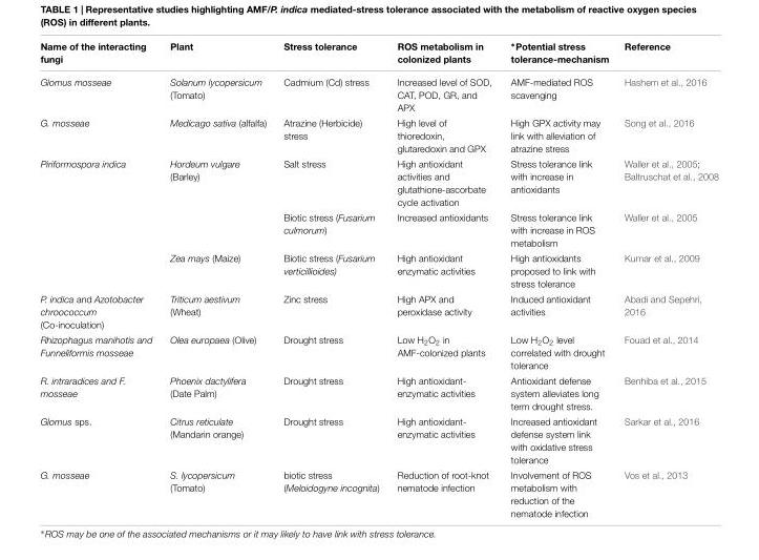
<table><thead><tr><td>Name of the interacting fungi</td><td>Plant</td><td>Stress tolerance</td><td>ROS metabolism in colonized plants</td><td>∗Potential stress tolerance-mechanism</td><td>Reference</td></tr></thead><tbody><tr><td>Glomus mosseae</td><td>Solanum lycopersicum (Tomato)</td><td>Cadmium (Cd) stress</td><td>Increased level of SOD, CAT, POD, GR, and APX</td><td>AMF-mediated ROS scavenging</td><td>Hashem et al., 2016</td></tr><tr><td>G. mosseae</td><td>Medicago sativa (alfalfa)</td><td>Atrazine (Herbicide) stress</td><td>High level of thioredoxin, glutaredoxin and GPX</td><td>High GPX activity may link with alleviation of atrazine stress</td><td>Song et al., 2016</td></tr><tr><td rowspan="3">Piriformospora indica</td><td>Hordeum vulgare (Barley)</td><td>Salt stress</td><td>High antioxidant activities and glutathione-ascorbate cycle activation</td><td>Stress tolerance link with increase in antioxidants</td><td>Waller et al., 2005; Baltruschat et al., 2008</td></tr><tr><td></td><td>Biotic stress (Fusarium culmorum)</td><td>Increased antioxidants</td><td>Stress tolerance link with increase in ROS metabolism</td><td>Waller et al., 2005</td></tr><tr><td>Zea mays (Maize)</td><td>Biotic stress (Fusarium verticillioides)</td><td>High antioxidant enzymatic activities</td><td>High antioxidants proposed to link with stress tolerance</td><td>Kumar et al., 2009</td></tr><tr><td>P. indica and Azotobacter chroococcum (Co-inoculation)</td><td>Triticum aestivum (Wheat)</td><td>Zinc stress</td><td>High APX and peroxidase activity</td><td>Induced antioxidant activities</td><td>Abadi and Sepehri, 2016</td></tr><tr><td>Rhizophagus manihotis and Funneliformis mosseae</td><td>Olea europaea (Olive)</td><td>Drought stress</td><td>Low H<sub>2</sub>O<sub>2</sub> in AMF-colonized plants</td><td>Low H<sub>2</sub>O<sub>2</sub> level correlated with drought tolerance</td><td>Fouad et al., 2014</td></tr><tr><td>R. intraradices and F. mosseae</td><td>Phoenix dactylifera (Date Palm)</td><td>Drought stress</td><td>High antioxidant- enzymatic activities</td><td>Antioxidant defense system alleviates long term drought stress.</td><td>Benhiba et al., 2015</td></tr><tr><td>Glomus sps.</td><td>Citrus reticulate (Mandarin orange)</td><td>Drought stress</td><td>High antioxidant- enzymatic activities</td><td>Increased antioxidant defense system link with oxidative stress tolerance</td><td>Sarkar et al., 2016</td></tr><tr><td>G. mosseae</td><td>S. lycopersicum (Tomato)</td><td>biotic stress (Meloidogyne incognita)</td><td>Reduction of root-knot nematode infection</td><td>Involvement of ROS metabolism with reduction of the nematode infection</td><td>Vos et al., 2013</td></tr></tbody></table>